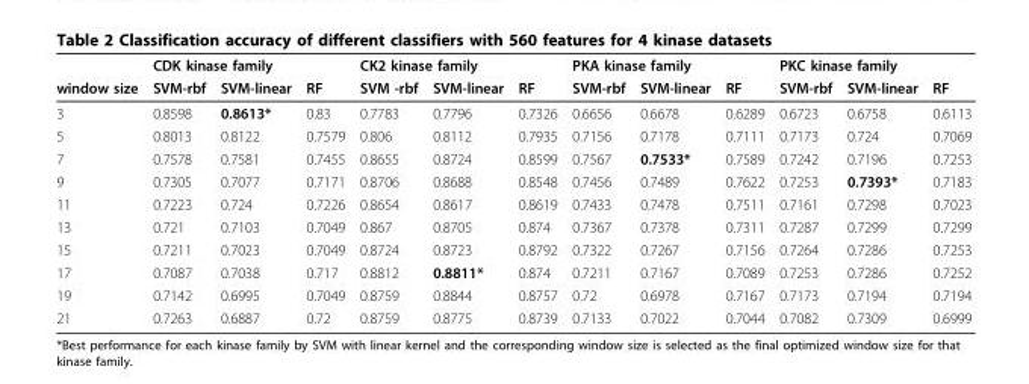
<table><thead><tr><td rowspan="2">window size</td><td colspan="3">CDK kinase family</td><td colspan="3">CK2 kinase family</td><td colspan="3">PKA kinase family</td><td colspan="3">PKC kinase family</td></tr><tr><td>SVM-rbf</td><td>SVM-linear</td><td>RF</td><td>SVM -rbf</td><td>SVM-linear</td><td>RF</td><td>SVM-rbf</td><td>SVM-linear</td><td>RF</td><td>SVM-rbf</td><td>SVM-linear</td><td>RF</td></tr></thead><tbody><tr><td>3</td><td>0.8598</td><td>0.8613*</td><td>0.83</td><td>0.7783</td><td>0.7796</td><td>0.7326</td><td>0.6656</td><td>0.6678</td><td>0.6289</td><td>0.6723</td><td>0.6758</td><td>0.6113</td></tr><tr><td>5</td><td>0.8013</td><td>0.8122</td><td>0.7579</td><td>0.806</td><td>0.8112</td><td>0.7935</td><td>0.7156</td><td>0.7178</td><td>0.7111</td><td>0.7173</td><td>0.724</td><td>0.7069</td></tr><tr><td>7</td><td>0.7578</td><td>0.7581</td><td>0.7455</td><td>0.8655</td><td>0.8724</td><td>0.8599</td><td>0.7567</td><td>0.7533*</td><td>0.7589</td><td>0.7242</td><td>0.7196</td><td>0.7253</td></tr><tr><td>9</td><td>0.7305</td><td>0.7077</td><td>0.7171</td><td>0.8706</td><td>0.8688</td><td>0.8548</td><td>0.7456</td><td>0.7489</td><td>0.7622</td><td>0.7253</td><td>0.7393*</td><td>0.7183</td></tr><tr><td>11</td><td>0.7223</td><td>0.724</td><td>0.7226</td><td>0.8654</td><td>0.8617</td><td>0.8619</td><td>0.7433</td><td>0.7478</td><td>0.7511</td><td>0.7161</td><td>0.7298</td><td>0.7023</td></tr><tr><td>13</td><td>0.721</td><td>0.7103</td><td>0.7049</td><td>0.867</td><td>0.8705</td><td>0.874</td><td>0.7367</td><td>0.7378</td><td>0.7311</td><td>0.7287</td><td>0.7299</td><td>0.7299</td></tr><tr><td>15</td><td>0.7211</td><td>0.7023</td><td>0.7049</td><td>0.8724</td><td>0.8723</td><td>0.8792</td><td>0.7322</td><td>0.7267</td><td>0.7156</td><td>0.7264</td><td>0.7286</td><td>0.7253</td></tr><tr><td>17</td><td>0.7087</td><td>0.7038</td><td>0.717</td><td>0.8812</td><td>0.8811*</td><td>0.874</td><td>0.7211</td><td>0.7167</td><td>0.7089</td><td>0.7253</td><td>0.7286</td><td>0.7252</td></tr><tr><td>19</td><td>0.7142</td><td>0.6995</td><td>0.7049</td><td>0.8759</td><td>0.8844</td><td>0.8757</td><td>0.72</td><td>0.6978</td><td>0.7167</td><td>0.7173</td><td>0.7194</td><td>0.7194</td></tr><tr><td>21</td><td>0.7263</td><td>0.6887</td><td>0.72</td><td>0.8759</td><td>0.8775</td><td>0.8739</td><td>0.7133</td><td>0.7022</td><td>0.7044</td><td>0.7082</td><td>0.7309</td><td>0.6999</td></tr></tbody></table>